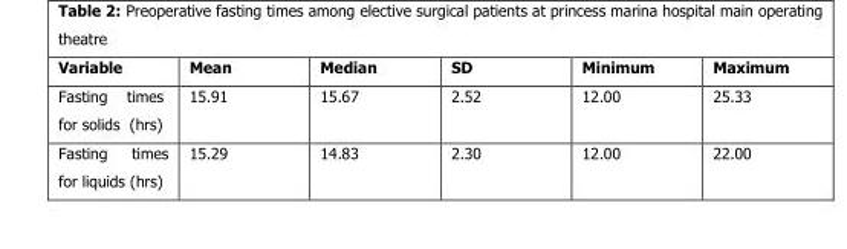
<table><thead><tr><td>Variable</td><td>Mean</td><td>Median</td><td>SD</td><td>Minimum</td><td>Maximum</td></tr></thead><tbody><tr><td>Fasting times for solids (hrs)</td><td>15.91</td><td>15.67</td><td>2.52</td><td>12.00</td><td>25.33</td></tr><tr><td>Fasting times for liquids (hrs)</td><td>15.29</td><td>14.83</td><td>2.30</td><td>12.00</td><td>22.00</td></tr></tbody></table>